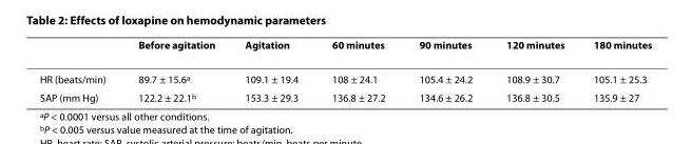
<table><thead><tr><td></td><td>Before agitation</td><td>Agitation</td><td>60 minutes</td><td>90 minutes</td><td>120 minutes</td><td>180 minutes</td></tr></thead><tbody><tr><td>HR (beats/min)</td><td>89.7 ± 15.6<sup>a</sup></td><td>109.1 ± 19.4</td><td>108 ± 24.1</td><td>105.4 ± 24.2</td><td>108.9 ± 30.7</td><td>105.1 ± 25.3</td></tr><tr><td>SAP (mm Hg)</td><td>122.2 ± 22.1<sup>b</sup></td><td>153.3 ± 29.3</td><td>136.8 ± 27.2</td><td>134.6 ± 26.2</td><td>136.8 ± 30.5</td><td>135.9 ± 27</td></tr></tbody></table>